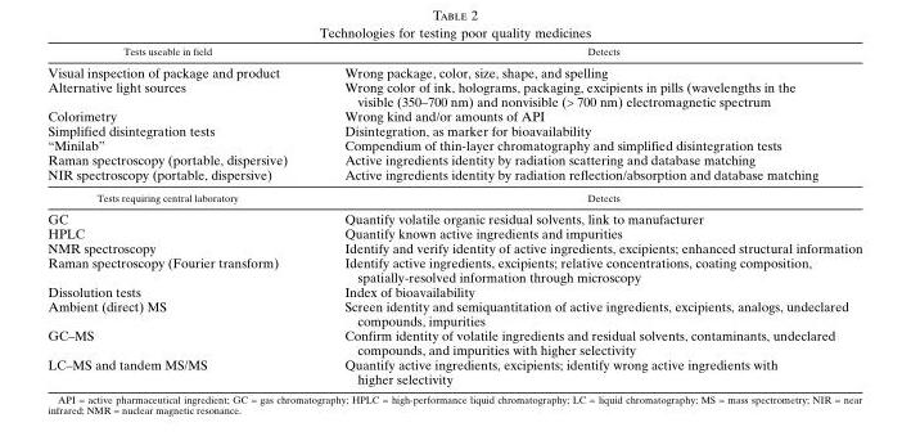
<table><thead><tr><td>Tests useable in field</td><td>Detects</td></tr></thead><tbody><tr><td>Visual inspection of package and product</td><td>Wrong package, color, size, shape, and spelling</td></tr><tr><td>Alternative light sources</td><td>Wrong color of ink, holograms, packaging, excipients in pills (wavelengths in the visible (350–700 nm) and nonvisible (&gt; 700 nm) electromagnetic spectrum</td></tr><tr><td>Colorimetry</td><td>Wrong kind and/or amounts of API</td></tr><tr><td>Simplified disintegration tests</td><td>Disintegration, as marker for bioavailability</td></tr><tr><td>“Minilab”</td><td>Compendium of thin-layer chromatography and simplified disintegration tests</td></tr><tr><td>Raman spectroscopy (portable, dispersive)</td><td>Active ingredients identity by radiation scattering and database matching</td></tr><tr><td>NIR spectroscopy (portable, dispersive)</td><td>Active ingredients identity by radiation reflection/absorption and database matching</td></tr><tr><td>Tests requiring central laboratory</td><td>Detects</td></tr><tr><td>GC</td><td>Quantify volatile organic residual solvents, link to manufacturer</td></tr><tr><td>HPLC</td><td>Quantify known active ingredients and impurities</td></tr><tr><td>NMR spectroscopy</td><td>Identify and verify identity of active ingredients, excipients; enhanced structural information</td></tr><tr><td>Raman spectroscopy (Fourier transform)</td><td>Identify active ingredients, excipients; relative concentrations, coating composition, spatially-resolved information through microscopy</td></tr><tr><td>Dissolution tests</td><td>Index of bioavailability</td></tr><tr><td>Ambient (direct) MS</td><td>Screen identity and semiquantitation of active ingredients, excipients, analogs, undeclared compounds, impurities</td></tr><tr><td>GC–MS</td><td>Confirm identity of volatile ingredients and residual solvents, contaminants, undeclared compounds, and impurities with higher selectivity</td></tr><tr><td>LC–MS and tandem MS/MS</td><td>Quantify active ingredients, excipients; identify wrong active ingredients with higher selectivity</td></tr></tbody></table>